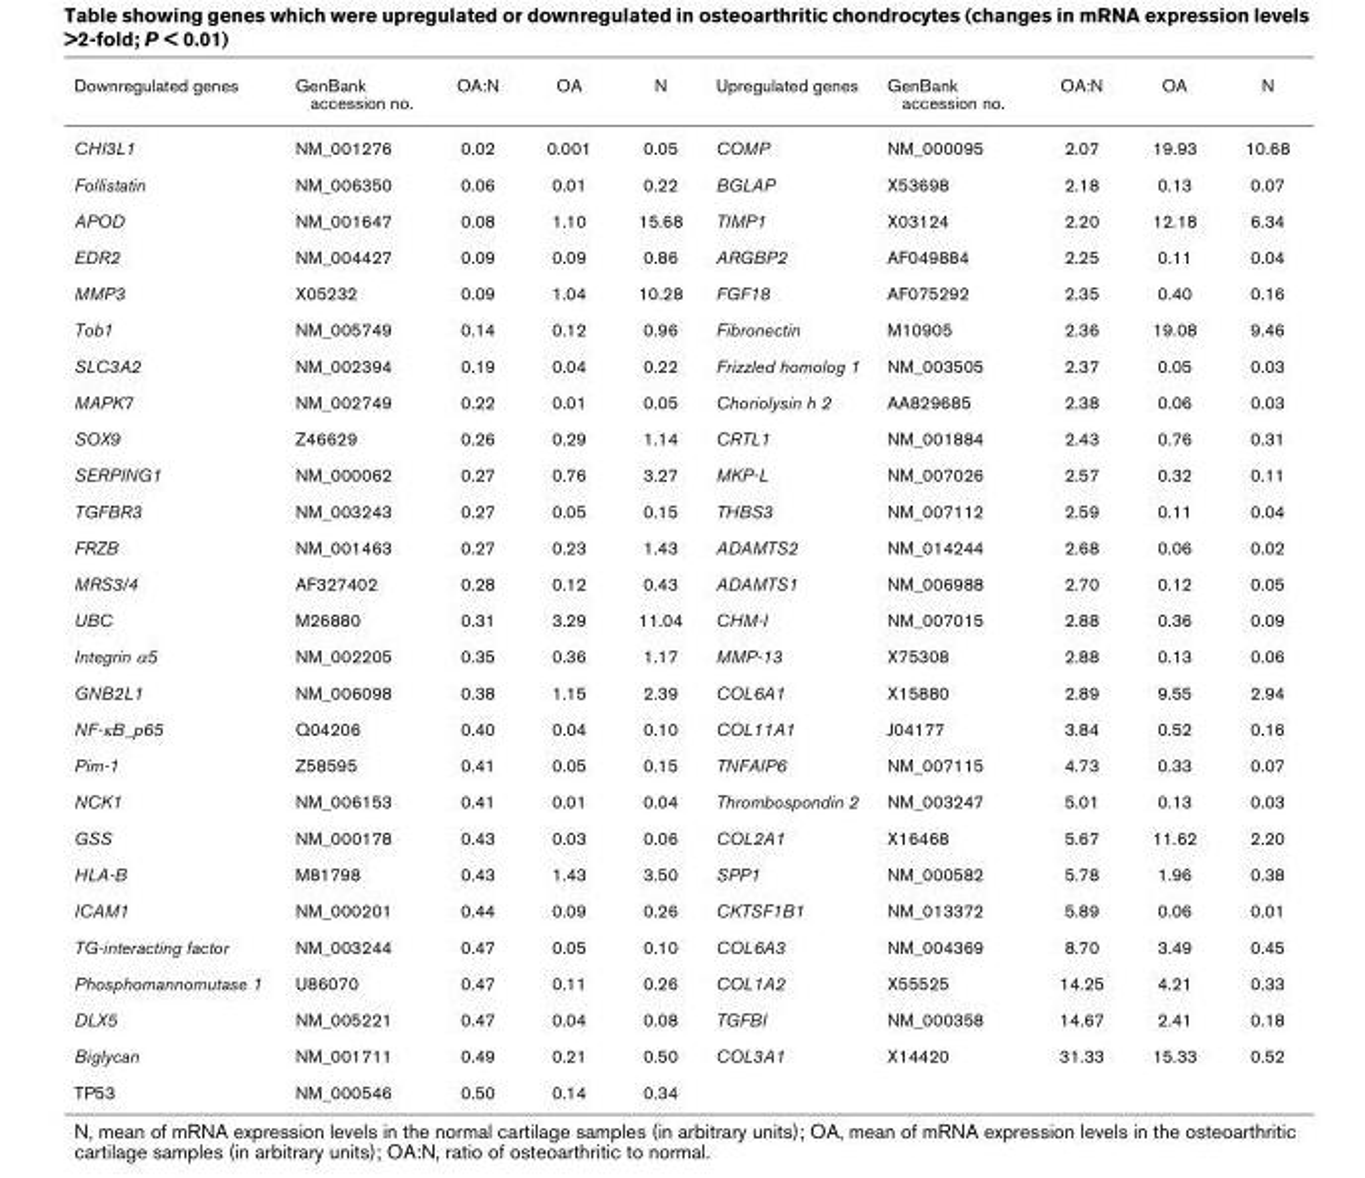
<table><thead><tr><td>Downregulated genes</td><td>GenBank accession no.</td><td>OA:N</td><td>OA</td><td>N</td><td>Upregulated genes</td><td>GenBank accession no.</td><td>OA:N</td><td>OA</td><td>N</td></tr></thead><tbody><tr><td>CHI3L1</td><td>NM_001276</td><td>0.02</td><td>0.001</td><td>0.05</td><td>COMP</td><td>NM_000095</td><td>2.07</td><td>19.93</td><td>10.68</td></tr><tr><td>Follistatin</td><td>NM_006350</td><td>0.06</td><td>0.01</td><td>0.22</td><td>BGLAP</td><td>X53698</td><td>2.18</td><td>0.13</td><td>0.07</td></tr><tr><td>APOD</td><td>NM_001647</td><td>0.08</td><td>1.10</td><td>15.68</td><td>TIMP1</td><td>X03124</td><td>2.20</td><td>12.18</td><td>6.34</td></tr><tr><td>EDR2</td><td>NM_004427</td><td>0.09</td><td>0.09</td><td>0.86</td><td>ARGBP2</td><td>AF049884</td><td>2.25</td><td>0.11</td><td>0.04</td></tr><tr><td>MMP3</td><td>X05232</td><td>0.09</td><td>1.04</td><td>10.28</td><td>FGF18</td><td>AF075292</td><td>2.35</td><td>0.40</td><td>0.16</td></tr><tr><td>Tob1</td><td>NM_005749</td><td>0.14</td><td>0.12</td><td>0.96</td><td>Fibronectin</td><td>M10905</td><td>2.36</td><td>19.08</td><td>9.46</td></tr><tr><td>SLC3A2</td><td>NM_002394</td><td>0.19</td><td>0.04</td><td>0.22</td><td>Frizzled homolog 1</td><td>NM_003505</td><td>2.37</td><td>0.05</td><td>0.03</td></tr><tr><td>MAPK7</td><td>NM_002749</td><td>0.22</td><td>0.01</td><td>0.05</td><td>Choriolysin h 2</td><td>AA829685</td><td>2.38</td><td>0.06</td><td>0.03</td></tr><tr><td>SOX9</td><td>Z46629</td><td>0.26</td><td>0.29</td><td>1.14</td><td>CRTL1</td><td>NM_001884</td><td>2.43</td><td>0.76</td><td>0.31</td></tr><tr><td>SERPING1</td><td>NM_000062</td><td>0.27</td><td>0.76</td><td>3.27</td><td>MKP-L</td><td>NM_007026</td><td>2.57</td><td>0.32</td><td>0.11</td></tr><tr><td>TGFBR3</td><td>NM_003243</td><td>0.27</td><td>0.05</td><td>0.15</td><td>THBS3</td><td>NM_007112</td><td>2.59</td><td>0.11</td><td>0.04</td></tr><tr><td>FRZB</td><td>NM_001463</td><td>0.27</td><td>0.23</td><td>1.43</td><td>ADAMTS2</td><td>NM_014244</td><td>2.68</td><td>0.06</td><td>0.02</td></tr><tr><td>MRS3/4</td><td>AF327402</td><td>0.28</td><td>0.12</td><td>0.43</td><td>ADAMTS1</td><td>NM_006988</td><td>2.70</td><td>0.12</td><td>0.05</td></tr><tr><td>UBC</td><td>M26880</td><td>0.31</td><td>3.29</td><td>11.04</td><td>CHM-I</td><td>NM_007015</td><td>2.88</td><td>0.36</td><td>0.09</td></tr><tr><td>Integrin α5</td><td>NM_002205</td><td>0.35</td><td>0.36</td><td>1.17</td><td>MMP-13</td><td>X75308</td><td>2.88</td><td>0.13</td><td>0.06</td></tr><tr><td>GNB2L1</td><td>NM_006098</td><td>0.38</td><td>1.15</td><td>2.39</td><td>COL6A1</td><td>X15880</td><td>2.89</td><td>9.55</td><td>2.94</td></tr><tr><td>NF-κB_p65</td><td>Q04206</td><td>0.40</td><td>0.04</td><td>0.10</td><td>COL11A1</td><td>J04177</td><td>3.84</td><td>0.52</td><td>0.16</td></tr><tr><td>Pim-1</td><td>Z58595</td><td>0.41</td><td>0.05</td><td>0.15</td><td>TNFAIP6</td><td>NM_007115</td><td>4.73</td><td>0.33</td><td>0.07</td></tr><tr><td>NCK1</td><td>NM_006153</td><td>0.41</td><td>0.01</td><td>0.04</td><td>Thrombospondin 2</td><td>NM_003247</td><td>5.01</td><td>0.13</td><td>0.03</td></tr><tr><td>GSS</td><td>NM_000178</td><td>0.43</td><td>0.03</td><td>0.06</td><td>COL2A1</td><td>X16468</td><td>5.67</td><td>11.62</td><td>2.20</td></tr><tr><td>HLA-B</td><td>M81798</td><td>0.43</td><td>1.43</td><td>3.50</td><td>SPP1</td><td>NM_000582</td><td>5.78</td><td>1.96</td><td>0.38</td></tr><tr><td>ICAM1</td><td>NM_000201</td><td>0.44</td><td>0.09</td><td>0.26</td><td>CKTSF1B1</td><td>NM_013372</td><td>5.89</td><td>0.06</td><td>0.01</td></tr><tr><td>TG-interacting factor</td><td>NM_003244</td><td>0.47</td><td>0.05</td><td>0.10</td><td>COL6A3</td><td>NM_004369</td><td>8.70</td><td>3.49</td><td>0.45</td></tr><tr><td>Phosphomannomutase 1</td><td>U86070</td><td>0.47</td><td>0.11</td><td>0.26</td><td>COL1A2</td><td>X55525</td><td>14.25</td><td>4.21</td><td>0.33</td></tr><tr><td>DLX5</td><td>NM_005221</td><td>0.47</td><td>0.04</td><td>0.08</td><td>TGFBI</td><td>NM_000358</td><td>14.67</td><td>2.41</td><td>0.18</td></tr><tr><td>Biglycan</td><td>NM_001711</td><td>0.49</td><td>0.21</td><td>0.50</td><td>COL3A1</td><td>X14420</td><td>31.33</td><td>15.33</td><td>0.52</td></tr><tr><td>TP53</td><td>NM_000546</td><td>0.50</td><td>0.14</td><td>0.34</td><td></td><td></td><td></td><td></td><td></td></tr></tbody></table>